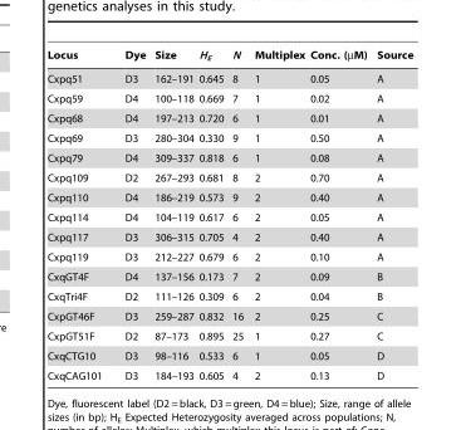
<table><thead><tr><td>Locus</td><td>Dye</td><td>Size</td><td>H<sub>E</sub></td><td>N</td><td>Multiplex</td><td>Conc. (µM)</td><td>Source</td></tr></thead><tbody><tr><td>Cxpq51</td><td>D3</td><td>162–191</td><td>0.645</td><td>8</td><td>1</td><td>0.05</td><td>A</td></tr><tr><td>Cxpq59</td><td>D4</td><td>100–118</td><td>0.669</td><td>7</td><td>1</td><td>0.02</td><td>A</td></tr><tr><td>Cxpq68</td><td>D4</td><td>197–213</td><td>0.720</td><td>6</td><td>1</td><td>0.01</td><td>A</td></tr><tr><td>Cxpq69</td><td>D3</td><td>280–304</td><td>0.330</td><td>9</td><td>1</td><td>0.50</td><td>A</td></tr><tr><td>Cxpq79</td><td>D4</td><td>309–337</td><td>0.818</td><td>6</td><td>1</td><td>0.08</td><td>A</td></tr><tr><td>Cxpq109</td><td>D2</td><td>267–293</td><td>0.681</td><td>8</td><td>2</td><td>0.70</td><td>A</td></tr><tr><td>Cxpq110</td><td>D4</td><td>186–219</td><td>0.573</td><td>9</td><td>2</td><td>0.40</td><td>A</td></tr><tr><td>Cxpq114</td><td>D4</td><td>104–119</td><td>0.617</td><td>6</td><td>2</td><td>0.05</td><td>A</td></tr><tr><td>Cxpq117</td><td>D3</td><td>306–315</td><td>0.705</td><td>4</td><td>2</td><td>0.40</td><td>A</td></tr><tr><td>Cxpq119</td><td>D3</td><td>212–227</td><td>0.679</td><td>6</td><td>2</td><td>0.10</td><td>A</td></tr><tr><td>CxqGT4F</td><td>D4</td><td>137–156</td><td>0.173</td><td>7</td><td>2</td><td>0.09</td><td>B</td></tr><tr><td>CxqTri4F</td><td>D2</td><td>111–126</td><td>0.309</td><td>6</td><td>2</td><td>0.04</td><td>B</td></tr><tr><td>CxpGT46F</td><td>D3</td><td>259–287</td><td>0.832</td><td>16</td><td>2</td><td>0.25</td><td>C</td></tr><tr><td>CxpGT51F</td><td>D2</td><td>87–173</td><td>0.895</td><td>25</td><td>1</td><td>0.27</td><td>C</td></tr><tr><td>CxqCTG10</td><td>D3</td><td>98–116</td><td>0.533</td><td>6</td><td>1</td><td>0.05</td><td>D</td></tr><tr><td>CxqCAG101</td><td>D3</td><td>184–193</td><td>0.605</td><td>4</td><td>2</td><td>0.13</td><td>D</td></tr></tbody></table>